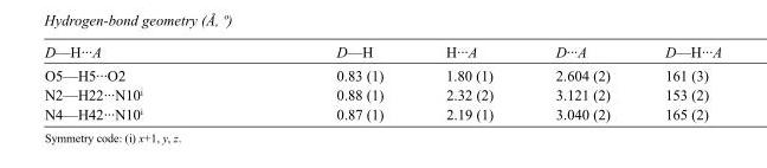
<table><tbody><tr><td>D—H···A</td><td>D—H</td><td>H···A</td><td>D···A</td><td>D—H···A</td></tr><tr><td>O5—H5···O2</td><td>0.83 (1)</td><td>1.80 (1)</td><td>2.604 (2)</td><td>161 (3)</td></tr><tr><td>N2—H22···N10<sup>i</sup></td><td>0.88 (1)</td><td>2.32 (2)</td><td>3.121 (2)</td><td>153 (2)</td></tr><tr><td>N4—H42···N10<sup>i</sup></td><td>0.87 (1)</td><td>2.19 (1)</td><td>3.040 (2)</td><td>165 (2)</td></tr></tbody></table>